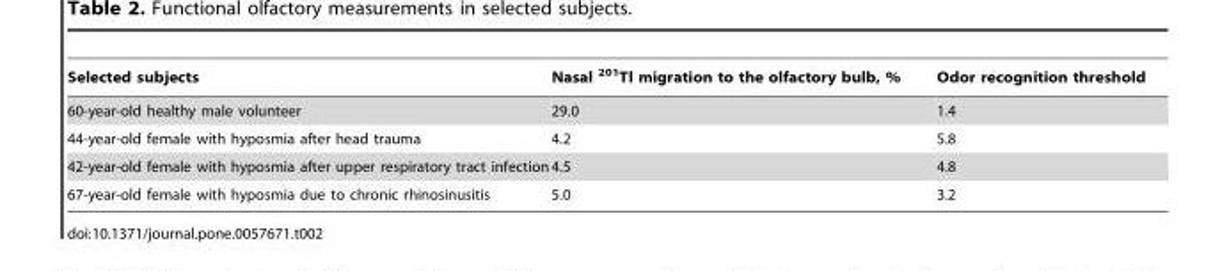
<table><thead><tr><td>Selected subjects</td><td>Nasal <sup>201</sup>Tl migration to the olfactory bulb, %</td><td>Odor recognition threshold</td></tr></thead><tbody><tr><td>60-year-old healthy male volunteer</td><td>29.0</td><td>1.4</td></tr><tr><td>44-year-old female with hyposmia after head trauma</td><td>4.2</td><td>5.8</td></tr><tr><td>42-year-old female with hyposmia after upper respiratory tract infection</td><td>4.5</td><td>4.8</td></tr><tr><td>67-year-old female with hyposmia due to chronic rhinosinusitis</td><td>5.0</td><td>3.2</td></tr></tbody></table>